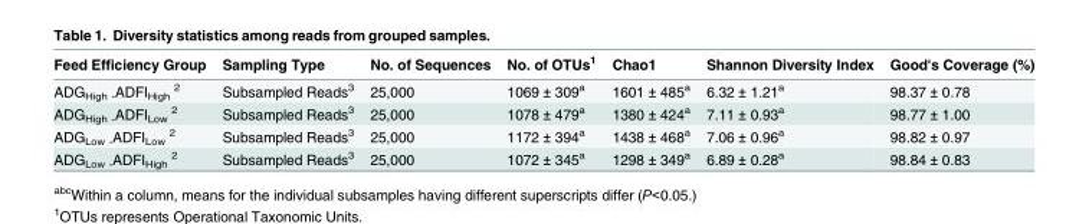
<table><thead><tr><td>Feed Efficiency Group</td><td>Sampling Type</td><td>No. of Sequences</td><td>No. of OTUs<sup>1</sup></td><td>Chao1</td><td>Shannon Diversity Index</td><td>Good&#x27;s Coverage (%)</td></tr></thead><tbody><tr><td>ADG<sub>High -</sub>ADFI<sub>High</sub> <sup>2</sup></td><td>Subsampled Reads<sup>3</sup></td><td>25,000</td><td>1069 ± 309<sup>a</sup></td><td>1601 ± 485<sup>a</sup></td><td>6.32 ± 1.21<sup>a</sup></td><td>98.37 ± 0.78</td></tr><tr><td>ADG<sub>High -</sub>ADFI<sub>Low</sub> <sup>2</sup></td><td>Subsampled Reads<sup>3</sup></td><td>25,000</td><td>1078 ± 479<sup>a</sup></td><td>1380 ± 424<sup>a</sup></td><td>7.11 ± 0.93<sup>a</sup></td><td>98.77 ± 1.00</td></tr><tr><td>ADG<sub>Low -</sub>ADFI<sub>Low</sub> <sup>2</sup></td><td>Subsampled Reads<sup>3</sup></td><td>25,000</td><td>1172 ± 394<sup>a</sup></td><td>1438 ± 468<sup>a</sup></td><td>7.06 ± 0.96<sup>a</sup></td><td>98.82 ± 0.97</td></tr><tr><td>ADG<sub>Low -</sub>ADFI<sub>High</sub> <sup>2</sup></td><td>Subsampled Reads<sup>3</sup></td><td>25,000</td><td>1072 ± 345<sup>a</sup></td><td>1298 ± 349<sup>a</sup></td><td>6.89 ± 0.28<sup>a</sup></td><td>98.84 ± 0.83</td></tr></tbody></table>